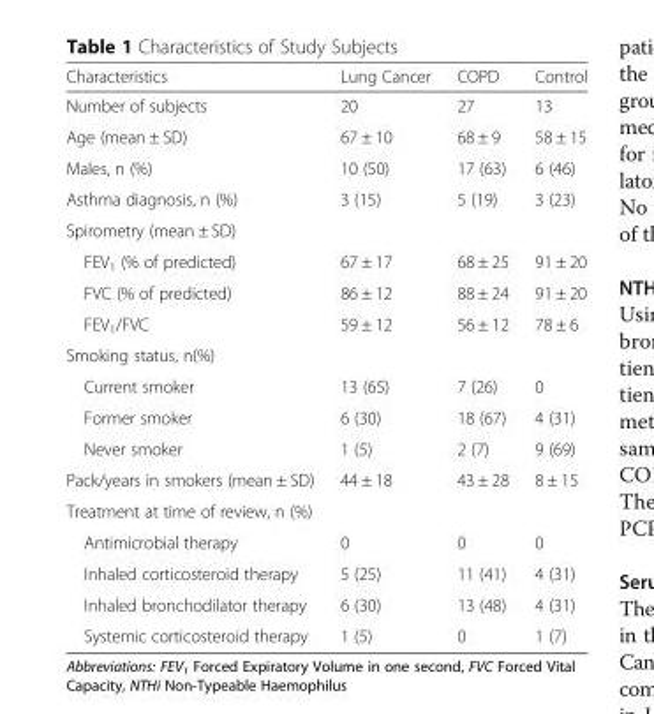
<table><thead><tr><td>Characteristics</td><td>Lung Cancer</td><td>COPD</td><td>Control</td></tr></thead><tbody><tr><td>Number of subjects</td><td>20</td><td>27</td><td>13</td></tr><tr><td>Age (mean ± SD)</td><td>67 ± 10</td><td>68 ± 9</td><td>58 ± 15</td></tr><tr><td>Males, n (%)</td><td>10 (50)</td><td>17 (63)</td><td>6 (46)</td></tr><tr><td>Asthma diagnosis, n (%)</td><td>3 (15)</td><td>5 (19)</td><td>3 (23)</td></tr><tr><td colspan="4">Spirometry (mean ± SD)</td></tr><tr><td>FEV<sub>1</sub> (% of predicted)</td><td>67 ± 17</td><td>68 ± 25</td><td>91 ± 20</td></tr><tr><td>FVC (% of predicted)</td><td>86 ± 12</td><td>88 ± 24</td><td>91 ± 20</td></tr><tr><td>FEV<sub>1</sub>/FVC</td><td>59 ± 12</td><td>56 ± 12</td><td>78 ± 6</td></tr><tr><td colspan="4">Smoking status, n(%)</td></tr><tr><td>Current smoker</td><td>13 (65)</td><td>7 (26)</td><td>0</td></tr><tr><td>Former smoker</td><td>6 (30)</td><td>18 (67)</td><td>4 (31)</td></tr><tr><td>Never smoker</td><td>1 (5)</td><td>2 (7)</td><td>9 (69)</td></tr><tr><td>Pack/years in smokers (mean ± SD)</td><td>44 ± 18</td><td>43 ± 28</td><td>8 ± 15</td></tr><tr><td colspan="4">Treatment at time of review, n (%)</td></tr><tr><td>Antimicrobial therapy</td><td>0</td><td>0</td><td>0</td></tr><tr><td>Inhaled corticosteroid therapy</td><td>5 (25)</td><td>11 (41)</td><td>4 (31)</td></tr><tr><td>Inhaled bronchodilator therapy</td><td>6 (30)</td><td>13 (48)</td><td>4 (31)</td></tr><tr><td>Systemic corticosteroid therapy</td><td>1 (5)</td><td>0</td><td>1 (7)</td></tr></tbody></table>